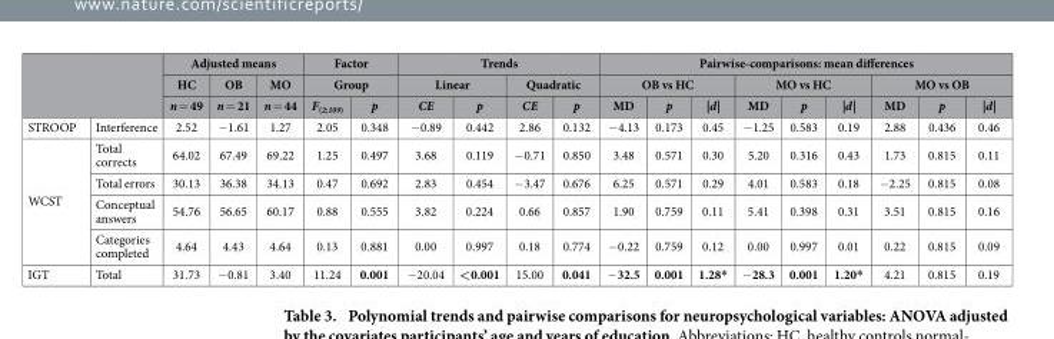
<table><thead><tr><td rowspan="3"></td><td rowspan="3"></td><td colspan="3">Adjusted means</td><td rowspan="2" colspan="2">Factor Group</td><td colspan="4">Trends</td><td colspan="9">Pairwise-comparisons: mean differences</td></tr><tr><td rowspan="2">HC n = 49</td><td rowspan="2">OB n = 21</td><td rowspan="2">MO n = 44</td><td colspan="2">Linear</td><td colspan="2">Quadratic</td><td colspan="3">OB vs HC</td><td colspan="3">MO vs HC</td><td colspan="3">MO vs OB</td></tr><tr><td>F(<sub>2;109)</sub></td><td>p</td><td>CE</td><td>p</td><td>CE</td><td>p</td><td>MD</td><td>p</td><td>|d|</td><td>MD</td><td>p</td><td>|d|</td><td>MD</td><td>p</td><td>|d|</td></tr></thead><tbody><tr><td>STROOP</td><td>Interference</td><td>2.52</td><td>− 1.61</td><td>1.27</td><td>2.05</td><td>0.348</td><td>− 0.89</td><td>0.442</td><td>2.86</td><td>0.132</td><td>− 4.13</td><td>0.173</td><td>0.45</td><td>− 1.25</td><td>0.583</td><td>0.19</td><td>2.88</td><td>0.436</td><td>0.46</td></tr><tr><td rowspan="4">WCST</td><td>Total corrects</td><td>64.02</td><td>67.49</td><td>69.22</td><td>1.25</td><td>0.497</td><td>3.68</td><td>0.119</td><td>− 0.71</td><td>0.850</td><td>3.48</td><td>0.571</td><td>0.30</td><td>5.20</td><td>0.316</td><td>0.43</td><td>1.73</td><td>0.815</td><td>0.11</td></tr><tr><td>Total errors</td><td>30.13</td><td>36.38</td><td>34.13</td><td>0.47</td><td>0.692</td><td>2.83</td><td>0.454</td><td>− 3.47</td><td>0.676</td><td>6.25</td><td>0.571</td><td>0.29</td><td>4.01</td><td>0.583</td><td>0.18</td><td>− 2.25</td><td>0.815</td><td>0.08</td></tr><tr><td>Conceptual answers</td><td>54.76</td><td>56.65</td><td>60.17</td><td>0.88</td><td>0.555</td><td>3.82</td><td>0.224</td><td>0.66</td><td>0.857</td><td>1.90</td><td>0.759</td><td>0.11</td><td>5.41</td><td>0.398</td><td>0.31</td><td>3.51</td><td>0.815</td><td>0.16</td></tr><tr><td>Categories completed</td><td>4.64</td><td>4.43</td><td>4.64</td><td>0.13</td><td>0.881</td><td>0.00</td><td>0.997</td><td>0.18</td><td>0.774</td><td>− 0.22</td><td>0.759</td><td>0.12</td><td>0.00</td><td>0.997</td><td>0.01</td><td>0.22</td><td>0.815</td><td>0.09</td></tr><tr><td>IGT</td><td>Total</td><td>31.73</td><td>− 0.81</td><td>3.40</td><td>11.24</td><td>0.001</td><td>− 20.04</td><td>&lt;0.001</td><td>15.00</td><td>0.041</td><td>− 32.5</td><td>0.001</td><td>1.28*</td><td>− 28.3</td><td>0.001</td><td>1.20*</td><td>4.21</td><td>0.815</td><td>0.19</td></tr></tbody></table>